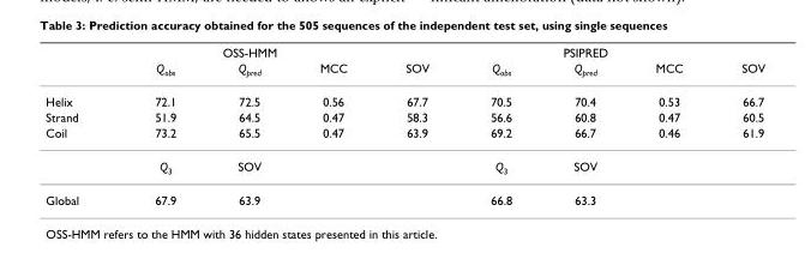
<table><thead><tr><td rowspan="2"></td><td colspan="3">OSS-HMM</td><td rowspan="2">SOV</td><td colspan="3">PSIPRED</td><td rowspan="2">SOV</td></tr><tr><td>Qobs</td><td>Qpred</td><td>MCC</td><td>Qobs</td><td>Qpred</td><td>MCC</td></tr></thead><tbody><tr><td>Helix</td><td>72.1</td><td>72.5</td><td>0.56</td><td>67.7</td><td>70.5</td><td>70.4</td><td>0.53</td><td>66.7</td></tr><tr><td>Strand</td><td>51.9</td><td>64.5</td><td>0.47</td><td>58.3</td><td>56.6</td><td>60.8</td><td>0.47</td><td>60.5</td></tr><tr><td rowspan="2">Coil</td><td>73.2</td><td>65.5</td><td>0.47</td><td>63.9</td><td>69.2</td><td>66.7</td><td>0.46</td><td>61.9</td></tr><tr><td>Q3</td><td>SOV</td><td></td><td></td><td>Q3</td><td>SOV</td><td></td><td></td></tr><tr><td>Global</td><td>67.9</td><td>63.9</td><td></td><td></td><td>66.8</td><td>63.3</td><td></td><td></td></tr></tbody></table>